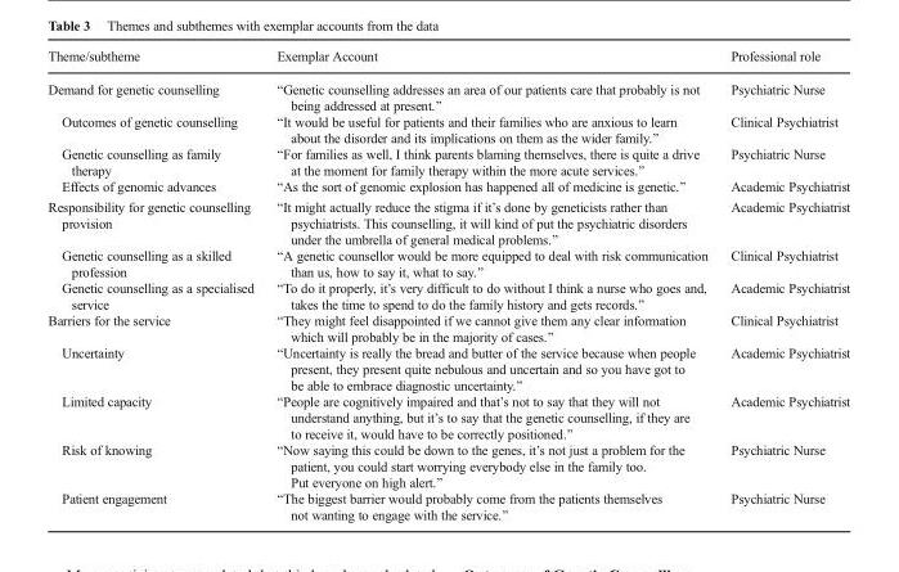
<table><thead><tr><td>Theme/subtheme</td><td>Exemplar Account</td><td>Professional role</td></tr></thead><tbody><tr><td>Demand for genetic counselling</td><td>“Genetic counselling addresses an area of our patients care that probably is not being addressed at present.”</td><td>Psychiatric Nurse</td></tr><tr><td>Outcomes of genetic counselling</td><td>“It would be useful for patients and their families who are anxious to learn about the disorder and its implications on them as the wider family.”</td><td>Clinical Psychiatrist</td></tr><tr><td>Genetic counselling as family therapy</td><td>“For families as well, I think parents blaming themselves, there is quite a drive at the moment for family therapy within the more acute services.”</td><td>Psychiatric Nurse</td></tr><tr><td>Effects of genomic advances</td><td>“As the sort of genomic explosion has happened all of medicine is genetic.”</td><td>Academic Psychiatrist</td></tr><tr><td>Responsibility for genetic counselling provision</td><td>“It might actually reduce the stigma if it’s done by geneticists rather than psychiatrists. This counselling, it will kind of put the psychiatric disorders under the umbrella of general medical problems.”</td><td>Academic Psychiatrist</td></tr><tr><td>Genetic counselling as a skilled profession</td><td>“A genetic counsellor would be more equipped to deal with risk communication than us, how to say it, what to say.”</td><td>Clinical Psychiatrist</td></tr><tr><td>Genetic counselling as a specialised service</td><td>“To do it properly, it’s very difficult to do without I think a nurse who goes and, takes the time to spend to do the family history and gets records.”</td><td>Academic Psychiatrist</td></tr><tr><td>Barriers for the service</td><td>“They might feel disappointed if we cannot give them any clear information which will probably be in the majority of cases.”</td><td>Clinical Psychiatrist</td></tr><tr><td>Uncertainty</td><td>“Uncertainty is really the bread and butter of the service because when people present, they present quite nebulous and uncertain and so you have got to be able to embrace diagnostic uncertainty.”</td><td>Academic Psychiatrist</td></tr><tr><td>Limited capacity</td><td>“People are cognitively impaired and that’s not to say that they will not understand anything, but it’s to say that the genetic counselling, if they are to receive it, would have to be correctly positioned.”</td><td>Academic Psychiatrist</td></tr><tr><td>Risk of knowing</td><td>“Now saying this could be down to the genes, it’s not just a problem for the patient, you could start worrying everybody else in the family too. Put everyone on high alert.”</td><td>Psychiatric Nurse</td></tr><tr><td>Patient engagement</td><td>“The biggest barrier would probably come from the patients themselves not wanting to engage with the service.”</td><td>Psychiatric Nurse</td></tr></tbody></table>